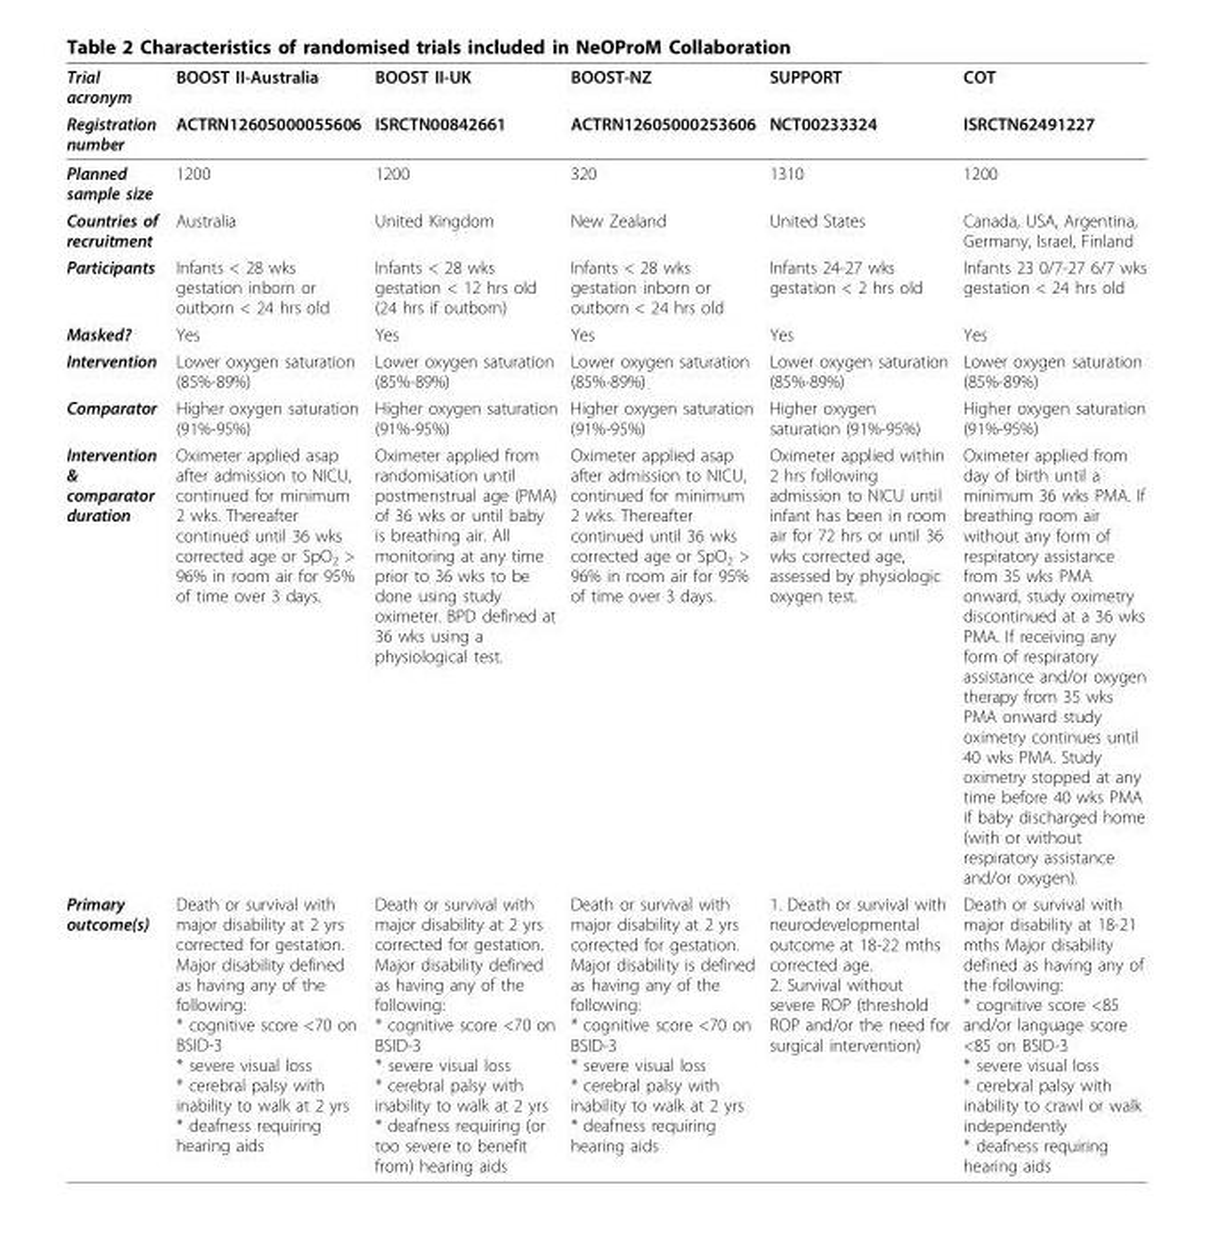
<table><thead><tr><td rowspan="2">Trial acronym Registration number</td><td rowspan="2">BOOST II-Australia ACTRN12605000055606</td><td rowspan="2">BOOST II-UK ISRCTN00842661</td><td rowspan="2">BOOST-NZ ACTRN12605000253606</td><td rowspan="2">SUPPORT NCT00233324</td><td rowspan="2">COT ISRCTN62491227</td></tr><tr></tr></thead><tbody><tr><td>Planned sample size</td><td>1200</td><td>1200</td><td>320</td><td>1310</td><td>1200</td></tr><tr><td>Countries of recruitment</td><td>Australia</td><td>United Kingdom</td><td>New Zealand</td><td>United States</td><td>Canada, USA, Argentina, Germany, Israel, Finland</td></tr><tr><td>Participants</td><td>Infants &lt; 28 wks gestation inborn or outborn &lt; 24 hrs old</td><td>Infants &lt; 28 wks gestation &lt; 12 hrs old (24 hrs if outborn)</td><td>Infants &lt; 28 wks gestation inborn or outborn &lt; 24 hrs old</td><td>Infants 24-27 wks gestation &lt; 2 hrs old</td><td>Infants 23 0/7-27 6/7 wks gestation &lt; 24 hrs old</td></tr><tr><td>Masked?</td><td>Yes</td><td>Yes</td><td>Yes</td><td>Yes</td><td>Yes</td></tr><tr><td>Intervention</td><td>Lower oxygen saturation (85%-89%)</td><td>Lower oxygen saturation (85%-89%)</td><td>Lower oxygen saturation (85%-89%)</td><td>Lower oxygen saturation (85%-89%)</td><td>Lower oxygen saturation (85%-89%)</td></tr><tr><td>Comparator</td><td>Higher oxygen saturation (91%-95%)</td><td>Higher oxygen saturation (91%-95%)</td><td>Higher oxygen saturation (91%-95%)</td><td>Higher oxygen saturation (91%-95%)</td><td>Higher oxygen saturation (91%-95%)</td></tr><tr><td>Intervention &amp; comparator duration</td><td>Oximeter applied asap after admission to NICU, continued for minimum 2 wks. Thereafter continued until 36 wks corrected age or SpO<sub>2</sub> &gt; 96% in room air for 95% of time over 3 days.</td><td>Oximeter applied from randomisation until postmenstrual age (PMA) of 36 wks or until baby is breathing air. All monitoring at any time prior to 36 wks to be done using study oximeter. BPD defined at 36 wks using a physiological test.</td><td>Oximeter applied asap after admission to NICU, continued for minimum 2 wks. Thereafter continued until 36 wks corrected age or SpO<sub>2</sub> &gt; 96% in room air for 95% of time over 3 days.</td><td>Oximeter applied within 2 hrs following admission to NICU until infant has been in room air for 72 hrs or until 36 wks corrected age, assessed by physiologic oxygen test.</td><td>Oximeter applied from day of birth until a minimum 36 wks PMA. If breathing room air without any form of respiratory assistance from 35 wks PMA onward, study oximetry discontinued at a 36 wks PMA. If receiving any form of respiratory assistance and/or oxygen therapy from 35 wks PMA onward study oximetry continues until 40 wks PMA. Study oximetry stopped at any time before 40 wks PMA if baby discharged home (with or without respiratory assistance and/or oxygen).</td></tr><tr><td>Primary outcome(s)</td><td>Death or survival with major disability at 2 yrs corrected for gestation. Major disability defined as having any of the following: * cognitive score &lt;70 on BSID-3 * severe visual loss * cerebral palsy with inability to walk at 2 yrs * deafness requiring hearing aids</td><td>Death or survival with major disability at 2 yrs corrected for gestation. Major disability defined as having any of the following: * cognitive score &lt;70 on BSID-3 * severe visual loss * cerebral palsy with inability to walk at 2 yrs * deafness requiring (or too severe to benefit from) hearing aids</td><td>Death or survival with major disability at 2 yrs corrected for gestation. Major disability is defined as having any of the following: * cognitive score &lt;70 on BSID-3 * severe visual loss * cerebral palsy with inability to walk at 2 yrs * deafness requiring hearing aids</td><td>1. Death or survival with neurodevelopmental outcome at 18-22 mths corrected age. 2. Survival without severe ROP (threshold ROP and/or the need for surgical intervention)</td><td>Death or survival with major disability at 18-21 mths Major disability defined as having any of the following: * cognitive score &lt;85 and/or language score &lt;85 on BSID-3 * severe visual loss * cerebral palsy with inability to crawl or walk independently * deafness requiring hearing aids</td></tr></tbody></table>